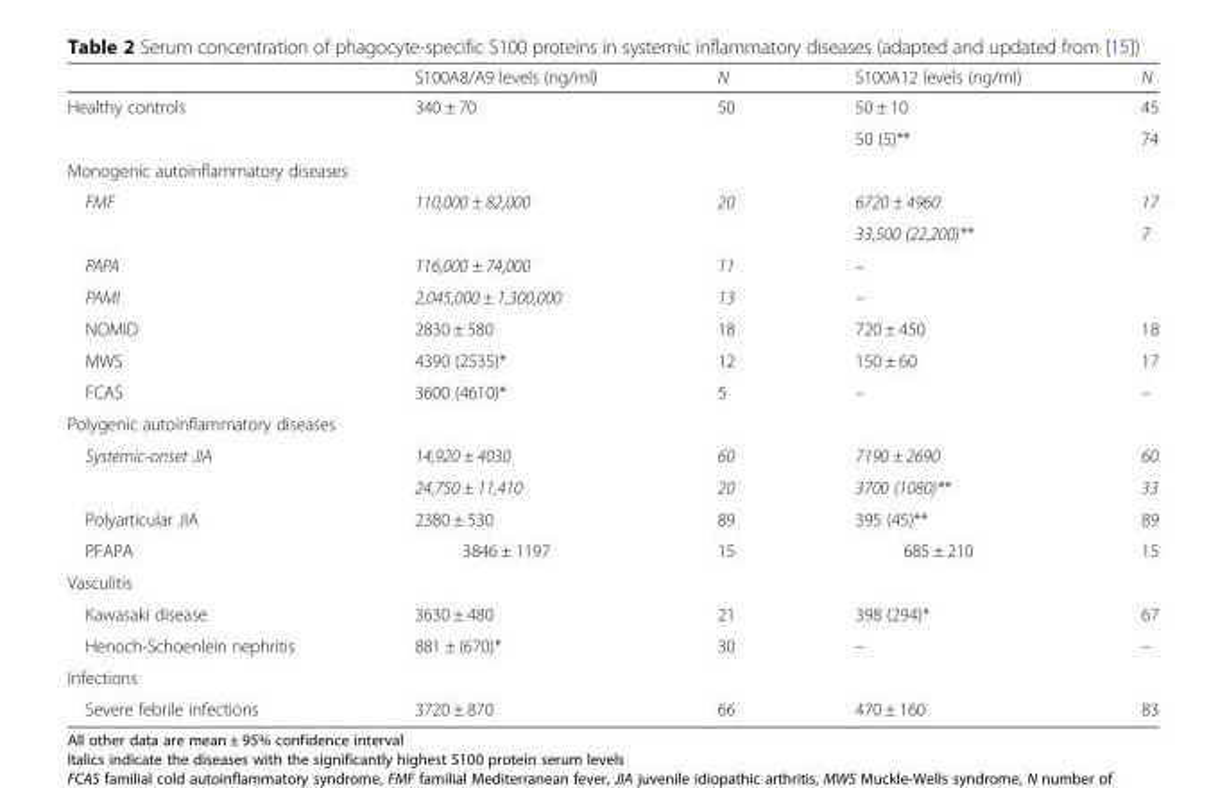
<table><thead><tr><td></td><td>S100A8/A9 levels (ng/ml)</td><td>N</td><td>S100A12 levels (ng/ml)</td><td>N</td></tr></thead><tbody><tr><td rowspan="2">Healthy controls</td><td>340 ± 70</td><td>50</td><td>50 ± 10</td><td>45</td></tr><tr><td></td><td></td><td>50 (5)**</td><td>74</td></tr><tr><td colspan="5">Monogenic autoinflammatory diseases</td></tr><tr><td rowspan="2">FMF</td><td rowspan="2">110,000 ± 82,000</td><td rowspan="2">20</td><td>6720 ± 4960</td><td>17</td></tr><tr><td>33,500 (22,200)**</td><td>7</td></tr><tr><td>PAPA</td><td>116,000 ± 74,000</td><td>11</td><td>–</td><td></td></tr><tr><td>PAMI</td><td>2,045,000 ± 1,300,000</td><td>13</td><td>–</td><td></td></tr><tr><td>NOMID</td><td>2830 ± 580</td><td>18</td><td>720 ± 450</td><td>18</td></tr><tr><td>MWS</td><td>4390 (2535)*</td><td>12</td><td>150 ± 60</td><td>17</td></tr><tr><td>FCAS</td><td>3600 (4610)*</td><td>5</td><td>–</td><td>–</td></tr><tr><td colspan="5">Polygenic autoinflammatory diseases</td></tr><tr><td rowspan="2">Systemic-onset JIA</td><td>14,920 ± 4030</td><td>60</td><td>7190 ± 2690</td><td>60</td></tr><tr><td>24,750 ± 11,410</td><td>20</td><td>3700 (1080)**</td><td>33</td></tr><tr><td>Polyarticular JIA</td><td>2380 ± 530</td><td>89</td><td>395 (45)**</td><td>89</td></tr><tr><td>PFAPA</td><td>3846 ± 1197</td><td>15</td><td>685 ± 210</td><td>15</td></tr><tr><td colspan="5">Vasculitis</td></tr><tr><td>Kawasaki disease</td><td>3630 ± 480</td><td>21</td><td>398 (294)*</td><td>67</td></tr><tr><td>Henoch-Schoenlein nephritis</td><td>881 ± (670)*</td><td>30</td><td>–</td><td>–</td></tr><tr><td colspan="5">Infections</td></tr><tr><td>Severe febrile infections</td><td>3720 ± 870</td><td>66</td><td>470 ± 160</td><td>83</td></tr></tbody></table>